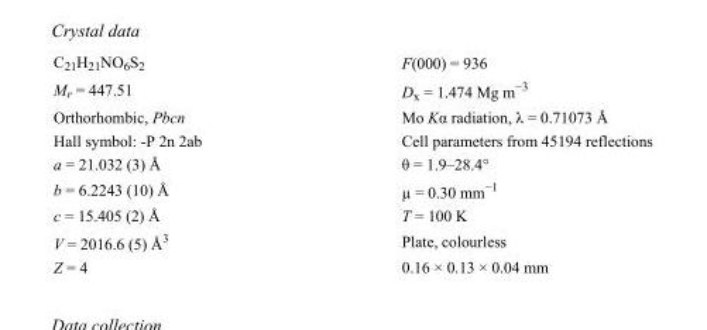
<table><tbody><tr><td>C<sub>21</sub>H<sub>21</sub>NO<sub>6</sub>S<sub>2</sub></td><td>F(000) = 936</td></tr><tr><td>M<sub>r</sub> = 447.51</td><td>D<sub>x</sub> = 1.474 Mg m<sup>−3</sup></td></tr><tr><td>Orthorhombic, Pbcn</td><td>Mo Kα radiation, λ = 0.71073 Å</td></tr><tr><td>Hall symbol: -P 2n 2ab</td><td>Cell parameters from 45194 reflections</td></tr><tr><td>a = 21.032 (3) Å</td><td>θ = 1.9–28.4°</td></tr><tr><td>b = 6.2243 (10) Å</td><td>µ = 0.30 mm<sup>−1</sup></td></tr><tr><td>c = 15.405 (2) Å</td><td>T = 100 K</td></tr><tr><td>V = 2016.6 (5) Å<sup>3</sup></td><td>Plate, colourless</td></tr><tr><td>Z = 4</td><td>0.16 × 0.13 × 0.04 mm</td></tr></tbody></table>